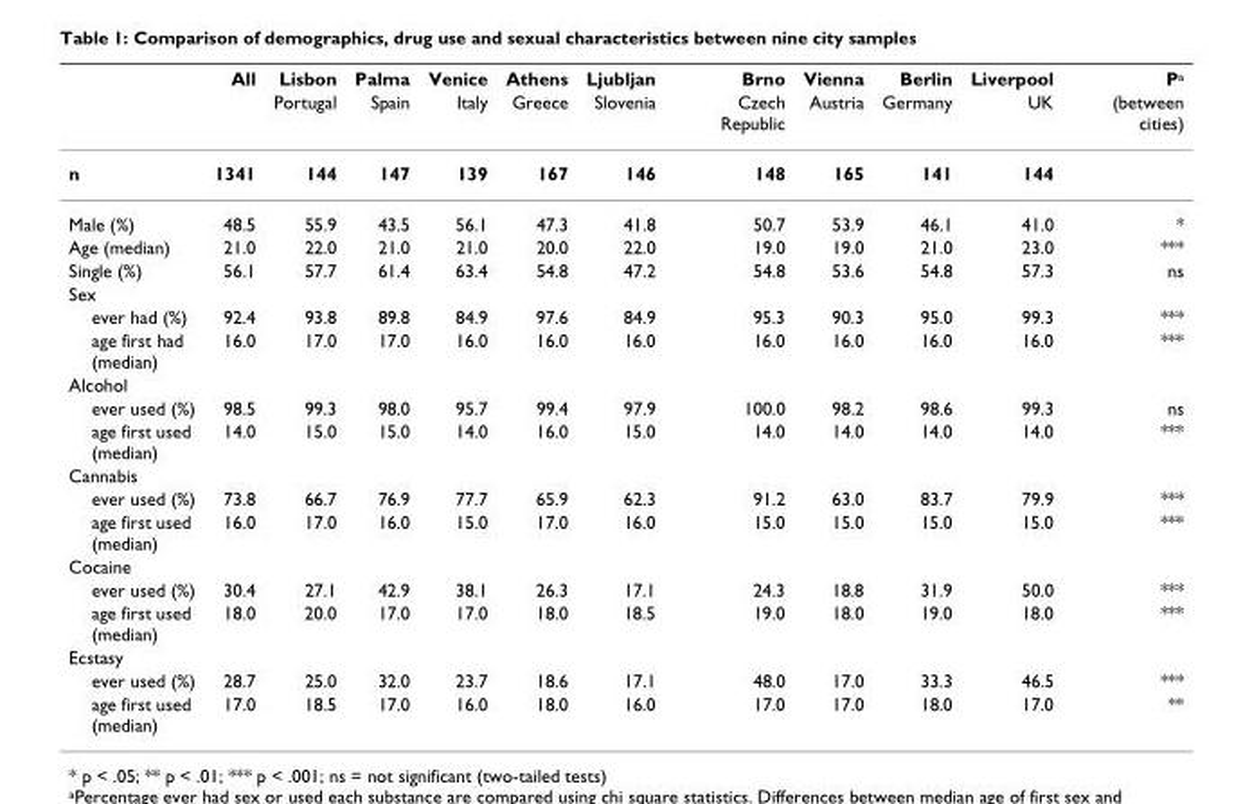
<table><thead><tr><td rowspan="2"></td><td rowspan="2">All</td><td rowspan="2">Lisbon Portugal</td><td rowspan="2">Palma Spain</td><td rowspan="2">Venice Italy</td><td rowspan="2">Athens Greece</td><td rowspan="2">Ljubljan Slovenia</td><td rowspan="2">Brno Czech Republic</td><td rowspan="2">Vienna Austria</td><td rowspan="2">Berlin Germany</td><td rowspan="2">Liverpool UK</td><td rowspan="2">Pa (between cities)</td></tr><tr></tr></thead><tbody><tr><td>n</td><td>1341</td><td>144</td><td>147</td><td>139</td><td>167</td><td>146</td><td>148</td><td>165</td><td>141</td><td>144</td><td></td></tr><tr><td>Male (%)</td><td>48.5</td><td>55.9</td><td>43.5</td><td>56.1</td><td>47.3</td><td>41.8</td><td>50.7</td><td>53.9</td><td>46.1</td><td>41.0</td><td>*</td></tr><tr><td>Age (median)</td><td>21.0</td><td>22.0</td><td>21.0</td><td>21.0</td><td>20.0</td><td>22.0</td><td>19.0</td><td>19.0</td><td>21.0</td><td>23.0</td><td>***</td></tr><tr><td>Single (%)</td><td>56.1</td><td>57.7</td><td>61.4</td><td>63.4</td><td>54.8</td><td>47.2</td><td>54.8</td><td>53.6</td><td>54.8</td><td>57.3</td><td>ns</td></tr><tr><td colspan="12">Sex</td></tr><tr><td>ever had (%)</td><td>92.4</td><td>93.8</td><td>89.8</td><td>84.9</td><td>97.6</td><td>84.9</td><td>95.3</td><td>90.3</td><td>95.0</td><td>99.3</td><td>***</td></tr><tr><td>age first had (median)</td><td>16.0</td><td>17.0</td><td>17.0</td><td>16.0</td><td>16.0</td><td>16.0</td><td>16.0</td><td>16.0</td><td>16.0</td><td>16.0</td><td>***</td></tr><tr><td colspan="12">Alcohol</td></tr><tr><td>ever used (%)</td><td>98.5</td><td>99.3</td><td>98.0</td><td>95.7</td><td>99.4</td><td>97.9</td><td>100.0</td><td>98.2</td><td>98.6</td><td>99.3</td><td>ns</td></tr><tr><td>age first used (median)</td><td>14.0</td><td>15.0</td><td>15.0</td><td>14.0</td><td>16.0</td><td>15.0</td><td>14.0</td><td>14.0</td><td>14.0</td><td>14.0</td><td>***</td></tr><tr><td colspan="12">Cannabis</td></tr><tr><td>ever used (%)</td><td>73.8</td><td>66.7</td><td>76.9</td><td>77.7</td><td>65.9</td><td>62.3</td><td>91.2</td><td>63.0</td><td>83.7</td><td>79.9</td><td>***</td></tr><tr><td>age first used (median)</td><td>16.0</td><td>17.0</td><td>16.0</td><td>15.0</td><td>17.0</td><td>16.0</td><td>15.0</td><td>15.0</td><td>15.0</td><td>15.0</td><td>***</td></tr><tr><td colspan="12">Cocaine</td></tr><tr><td>ever used (%)</td><td>30.4</td><td>27.1</td><td>42.9</td><td>38.1</td><td>26.3</td><td>17.1</td><td>24.3</td><td>18.8</td><td>31.9</td><td>50.0</td><td>***</td></tr><tr><td>age first used (median)</td><td>18.0</td><td>20.0</td><td>17.0</td><td>17.0</td><td>18.0</td><td>18.5</td><td>19.0</td><td>18.0</td><td>19.0</td><td>18.0</td><td>***</td></tr><tr><td colspan="12">Ecstasy</td></tr><tr><td>ever used (%)</td><td>28.7</td><td>25.0</td><td>32.0</td><td>23.7</td><td>18.6</td><td>17.1</td><td>48.0</td><td>17.0</td><td>33.3</td><td>46.5</td><td>***</td></tr><tr><td>age first used (median)</td><td>17.0</td><td>18.5</td><td>17.0</td><td>16.0</td><td>18.0</td><td>16.0</td><td>17.0</td><td>17.0</td><td>18.0</td><td>17.0</td><td>**</td></tr></tbody></table>